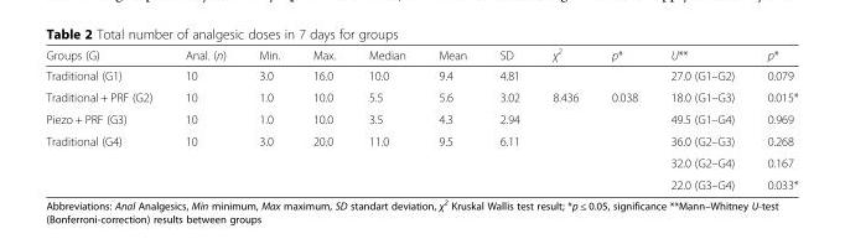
<table><thead><tr><td>Groups (G)</td><td>Anal. (n)</td><td>Min.</td><td>Max.</td><td>Median</td><td>Mean</td><td>SD</td><td>χ<sup>2</sup></td><td>p*</td><td>U**</td><td>p*</td></tr></thead><tbody><tr><td>Traditional (G1)</td><td>10</td><td>3.0</td><td>16.0</td><td>10.0</td><td>9.4</td><td>4.81</td><td></td><td></td><td>27.0 (G1–G2)</td><td>0.079</td></tr><tr><td>Traditional + PRF (G2)</td><td>10</td><td>1.0</td><td>10.0</td><td>5.5</td><td>5.6</td><td>3.02</td><td>8.436</td><td>0.038</td><td>18.0 (G1–G3)</td><td>0.015*</td></tr><tr><td>Piezo + PRF (G3)</td><td>10</td><td>1.0</td><td>10.0</td><td>3.5</td><td>4.3</td><td>2.94</td><td></td><td></td><td>49.5 (G1–G4)</td><td>0.969</td></tr><tr><td rowspan="3">Traditional (G4)</td><td>10</td><td>3.0</td><td>20.0</td><td>11.0</td><td>9.5</td><td>6.11</td><td></td><td></td><td>36.0 (G2–G3)</td><td>0.268</td></tr><tr><td></td><td></td><td></td><td></td><td></td><td></td><td></td><td></td><td>32.0 (G2–G4)</td><td>0.167</td></tr><tr><td></td><td></td><td></td><td></td><td></td><td></td><td></td><td></td><td>22.0 (G3–G4)</td><td>0.033*</td></tr></tbody></table>